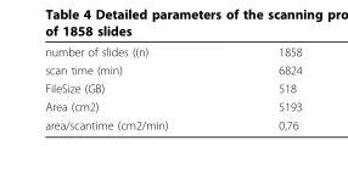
<table><tbody><tr><td>number of slides ((n)</td><td>1858</td></tr><tr><td>scan time (min)</td><td>6824</td></tr><tr><td>FileSize (GB)</td><td>518</td></tr><tr><td>Area (cm2)</td><td>5193</td></tr><tr><td>area/scantime (cm2/min)</td><td>0,76</td></tr></tbody></table>